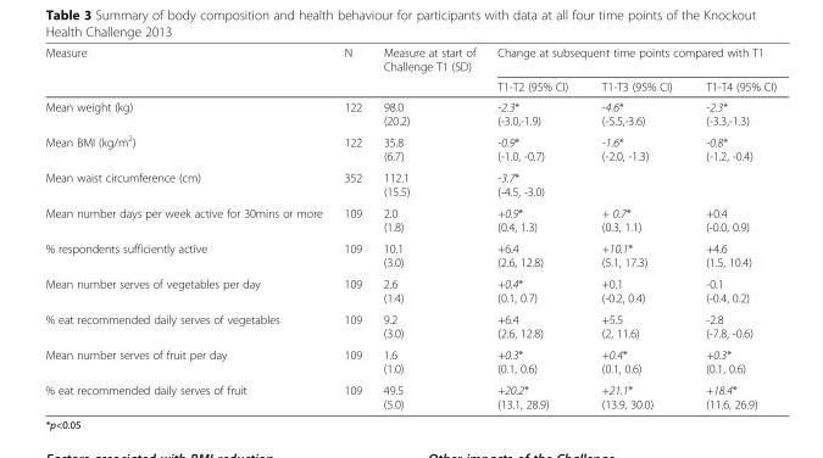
<table><thead><tr><td rowspan="2">Measure</td><td rowspan="2">N</td><td rowspan="2">Measure at start of Challenge T1 (SD)</td><td colspan="3">Change at subsequent time points compared with T1</td></tr><tr><td>T1-T2 (95% CI)</td><td>T1-T3 (95% CI)</td><td>T1-T4 (95% CI)</td></tr></thead><tbody><tr><td>Mean weight (kg)</td><td>122</td><td>98.0 (20.2)</td><td>-2.3* (-3.0,-1.9)</td><td>-4.6* (-5.5,-3.6)</td><td>-2.3* (-3.3,-1.3)</td></tr><tr><td>Mean BMI (kg/m<sup>2</sup>)</td><td>122</td><td>35.8 (6.7)</td><td>-0.9* (-1.0, -0.7)</td><td>-1.6* (-2.0, -1.3)</td><td>-0.8* (-1.2, -0.4)</td></tr><tr><td>Mean waist circumference (cm)</td><td>352</td><td>112.1 (15.5)</td><td>-3.7* (-4.5, -3.0)</td><td></td><td></td></tr><tr><td>Mean number days per week active for 30mins or more</td><td>109</td><td>2.0 (1.8)</td><td>+0.9* (0.4, 1.3)</td><td>+ 0.7* (0.3, 1.1)</td><td>+0.4 (-0.0, 0.9)</td></tr><tr><td>% respondents sufficiently active</td><td>109</td><td>10.1 (3.0)</td><td>+6.4 (2.6, 12.8)</td><td>+10.1* (5.1, 17.3)</td><td>+4.6 (1.5, 10.4)</td></tr><tr><td>Mean number serves of vegetables per day</td><td>109</td><td>2.6 (1.4)</td><td>+0.4* (0.1, 0.7)</td><td>+0.1 (-0.2, 0.4)</td><td>-0.1 (-0.4, 0.2)</td></tr><tr><td>% eat recommended daily serves of vegetables</td><td>109</td><td>9.2 (3.0)</td><td>+6.4 (2.6, 12.8)</td><td>+5.5 (2, 11.6)</td><td>-2.8 (-7.8, -0.6)</td></tr><tr><td>Mean number serves of fruit per day</td><td>109</td><td>1.6 (1.0)</td><td>+0.3* (0.1, 0.6)</td><td>+0.4* (0.1, 0.6)</td><td>+0.3* (0.1, 0.6)</td></tr><tr><td>% eat recommended daily serves of fruit</td><td>109</td><td>49.5 (5.0)</td><td>+20.2* (13.1, 28.9)</td><td>+21.1* (13.9, 30.0)</td><td>+18.4* (11.6, 26.9)</td></tr></tbody></table>